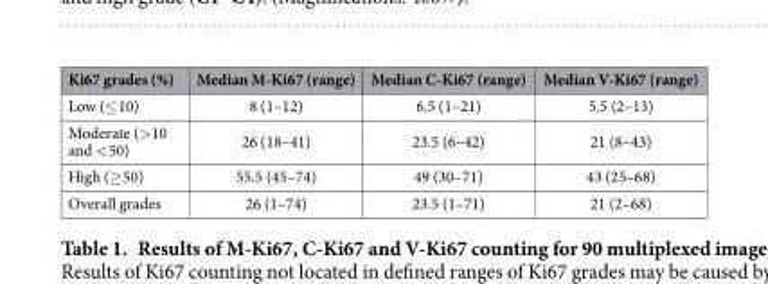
<table><thead><tr><td>Ki67 grades (%)</td><td>Median M-Ki67 (range)</td><td>Median C-Ki67 (range)</td><td>Median V-Ki67 (range)</td></tr></thead><tbody><tr><td>Low (≤ 10)</td><td>8 (1–12)</td><td>6.5 (1–21)</td><td>5.5 (2–13)</td></tr><tr><td>Moderate (&gt;10 and &lt; 50)</td><td>26 (18–41)</td><td>23.5 (6–42)</td><td>21 (8–43)</td></tr><tr><td>High (≥ 50)</td><td>55.5 (45–74)</td><td>49 (30–71)</td><td>43 (25–68)</td></tr><tr><td>Overall grades</td><td>26 (1–74)</td><td>23.5 (1–71)</td><td>21 (2–68)</td></tr></tbody></table>